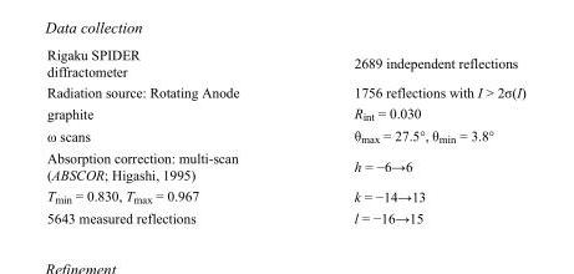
<table><tbody><tr><td>Rigaku SPIDER diffractometer</td><td>2689 independent reflections</td></tr><tr><td>Radiation source: Rotating Anode</td><td>1756 reflections with I &gt; 2σ(I)</td></tr><tr><td>graphite</td><td>R<sub>int</sub> = 0.030</td></tr><tr><td>ω scans</td><td>θ<sub>max</sub> = 27.5°, θ<sub>min</sub> = 3.8°</td></tr><tr><td>Absorption correction: multi-scan (ABSCOR; Higashi, 1995)</td><td>h = −6→6</td></tr><tr><td>T<sub>min</sub> = 0.830, T<sub>max</sub> = 0.967</td><td>k = −14→13</td></tr><tr><td>5643 measured reflections</td><td>l = −16→15</td></tr></tbody></table>